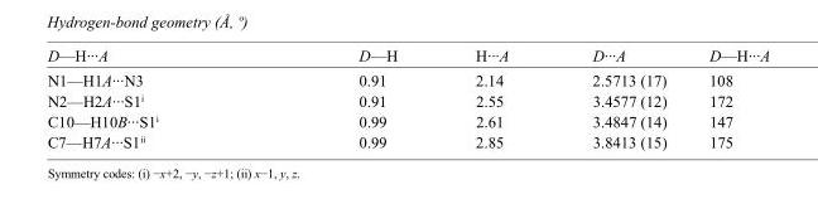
<table><tbody><tr><td>D—H···A</td><td>D—H</td><td>H···A</td><td>D···A</td><td>D—H···A</td></tr><tr><td>N1—H1A···N3</td><td>0.91</td><td>2.14</td><td>2.5713 (17)</td><td>108</td></tr><tr><td>N2—H2A···S1<sup>i</sup></td><td>0.91</td><td>2.55</td><td>3.4577 (12)</td><td>172</td></tr><tr><td>C10—H10B···S1<sup>i</sup></td><td>0.99</td><td>2.61</td><td>3.4847 (14)</td><td>147</td></tr><tr><td>C7—H7A···S1<sup>ii</sup></td><td>0.99</td><td>2.85</td><td>3.8413 (15)</td><td>175</td></tr></tbody></table>